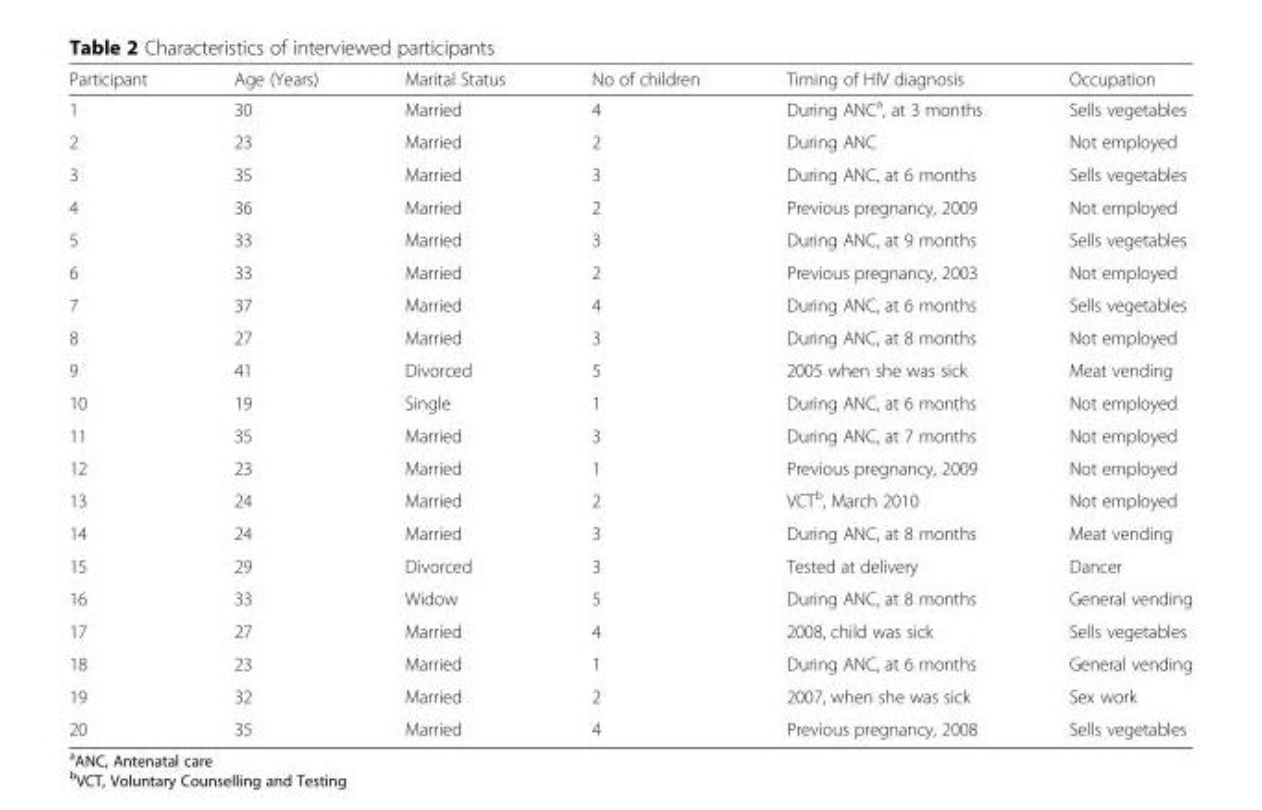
<table><thead><tr><td>Participant</td><td>Age (Years)</td><td>Marital Status</td><td>No of children</td><td>Timing of HIV diagnosis</td><td>Occupation</td></tr></thead><tbody><tr><td>1</td><td>30</td><td>Married</td><td>4</td><td>During ANC<sup>a</sup>, at 3 months</td><td>Sells vegetables</td></tr><tr><td>2</td><td>23</td><td>Married</td><td>2</td><td>During ANC</td><td>Not employed</td></tr><tr><td>3</td><td>35</td><td>Married</td><td>3</td><td>During ANC, at 6 months</td><td>Sells vegetables</td></tr><tr><td>4</td><td>36</td><td>Married</td><td>2</td><td>Previous pregnancy, 2009</td><td>Not employed</td></tr><tr><td>5</td><td>33</td><td>Married</td><td>3</td><td>During ANC, at 9 months</td><td>Sells vegetables</td></tr><tr><td>6</td><td>33</td><td>Married</td><td>2</td><td>Previous pregnancy, 2003</td><td>Not employed</td></tr><tr><td>7</td><td>37</td><td>Married</td><td>4</td><td>During ANC, at 6 months</td><td>Sells vegetables</td></tr><tr><td>8</td><td>27</td><td>Married</td><td>3</td><td>During ANC, at 8 months</td><td>Not employed</td></tr><tr><td>9</td><td>41</td><td>Divorced</td><td>5</td><td>2005 when she was sick</td><td>Meat vending</td></tr><tr><td>10</td><td>19</td><td>Single</td><td>1</td><td>During ANC, at 6 months</td><td>Not employed</td></tr><tr><td>11</td><td>35</td><td>Married</td><td>3</td><td>During ANC, at 7 months</td><td>Not employed</td></tr><tr><td>12</td><td>23</td><td>Married</td><td>1</td><td>Previous pregnancy, 2009</td><td>Not employed</td></tr><tr><td>13</td><td>24</td><td>Married</td><td>2</td><td>VCT<sup>b</sup>, March 2010</td><td>Not employed</td></tr><tr><td>14</td><td>24</td><td>Married</td><td>3</td><td>During ANC, at 8 months</td><td>Meat vending</td></tr><tr><td>15</td><td>29</td><td>Divorced</td><td>3</td><td>Tested at delivery</td><td>Dancer</td></tr><tr><td>16</td><td>33</td><td>Widow</td><td>5</td><td>During ANC, at 8 months</td><td>General vending</td></tr><tr><td>17</td><td>27</td><td>Married</td><td>4</td><td>2008, child was sick</td><td>Sells vegetables</td></tr><tr><td>18</td><td>23</td><td>Married</td><td>1</td><td>During ANC, at 6 months</td><td>General vending</td></tr><tr><td>19</td><td>32</td><td>Married</td><td>2</td><td>2007, when she was sick</td><td>Sex work</td></tr><tr><td>20</td><td>35</td><td>Married</td><td>4</td><td>Previous pregnancy, 2008</td><td>Sells vegetables</td></tr></tbody></table>